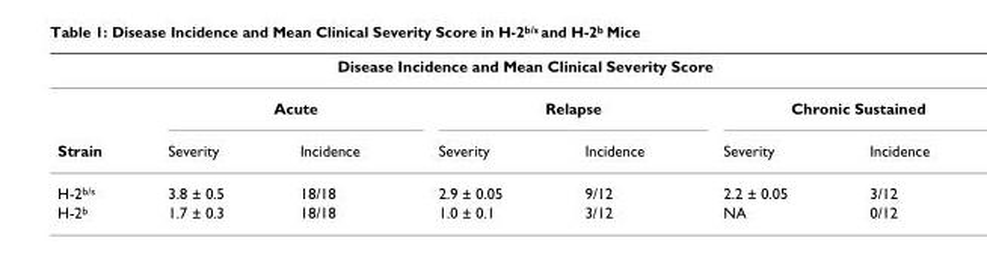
<table><thead><tr><td colspan="7">Disease Incidence and Mean Clinical Severity Score</td></tr><tr><td rowspan="2">Strain</td><td colspan="2">Acute</td><td colspan="2">Relapse</td><td colspan="2">Chronic Sustained</td></tr><tr><td>Severity</td><td>Incidence</td><td>Severity</td><td>Incidence</td><td>Severity</td><td>Incidence</td></tr></thead><tbody><tr><td>H-2<sup>b/s</sup></td><td>3.8 ± 0.5</td><td>18/18</td><td>2.9 ± 0.05</td><td>9/12</td><td>2.2 ± 0.05</td><td>3/12</td></tr><tr><td>H-2<sup>b</sup></td><td>1.7 ± 0.3</td><td>18/18</td><td>1.0 ± 0.1</td><td>3/12</td><td>NA</td><td>0/12</td></tr></tbody></table>